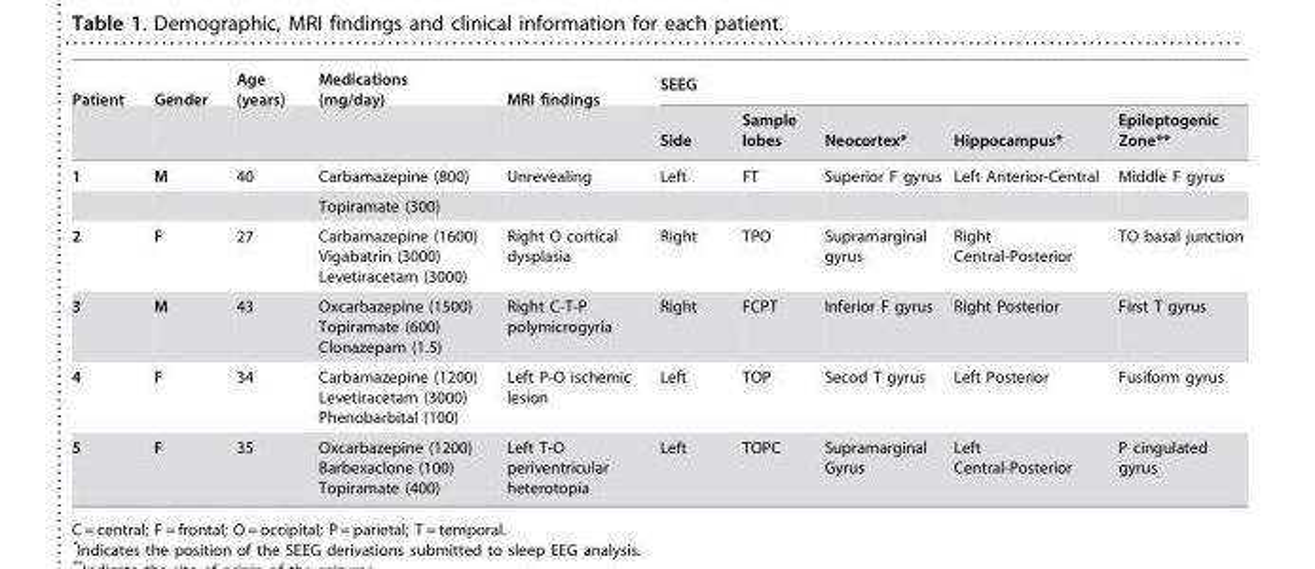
<table><thead><tr><td rowspan="2">Patient</td><td rowspan="2">Gender</td><td rowspan="2">Age (years)</td><td rowspan="2">Medications (mg/day)</td><td rowspan="2">MRI findings</td><td colspan="5">SEEG</td></tr><tr><td>Side</td><td>Sample lobes</td><td>Neocortex*</td><td>Hippocampus*</td><td>Epileptogenic Zone**</td></tr></thead><tbody><tr><td rowspan="2">1</td><td>M</td><td>40</td><td>Carbamazepine (800)</td><td>Unrevealing</td><td>Left</td><td>FT</td><td>Superior F gyrus</td><td>Left Anterior-Central</td><td>Middle F gyrus</td></tr><tr><td></td><td></td><td>Topiramate (300)</td><td></td><td></td><td></td><td></td><td></td><td></td></tr><tr><td>2</td><td>F</td><td>27</td><td>Carbamazepine (1600) Vigabatrin (3000) Levetiracetam (3000)</td><td>Right O cortical dysplasia</td><td>Right</td><td>TPO</td><td>Supramarginal gyrus</td><td>Right Central-Posterior</td><td>TO basal junction</td></tr><tr><td>3</td><td>M</td><td>43</td><td>Oxcarbazepine (1500) Topiramate (600) Clonazepam (1.5)</td><td>Right C-T-P polymicrogyria</td><td>Right</td><td>FCPT</td><td>Inferior F gyrus</td><td>Right Posterior</td><td>First T gyrus</td></tr><tr><td>4</td><td>F</td><td>34</td><td>Carbamazepine (1200) Levetiracetam (3000) Phenobarbital (100)</td><td>Left P-O ischemic lesion</td><td>Left</td><td>TOP</td><td>Secod T gyrus</td><td>Left Posterior</td><td>Fusiform gyrus</td></tr><tr><td>5</td><td>F</td><td>35</td><td>Oxcarbazepine (1200) Barbexaclone (100) Topiramate (400)</td><td>Left T-O periventricular heterotopia</td><td>Left</td><td>TOPC</td><td>Supramarginal Gyrus</td><td>Left Central-Posterior</td><td>P cingulated gyrus</td></tr></tbody></table>